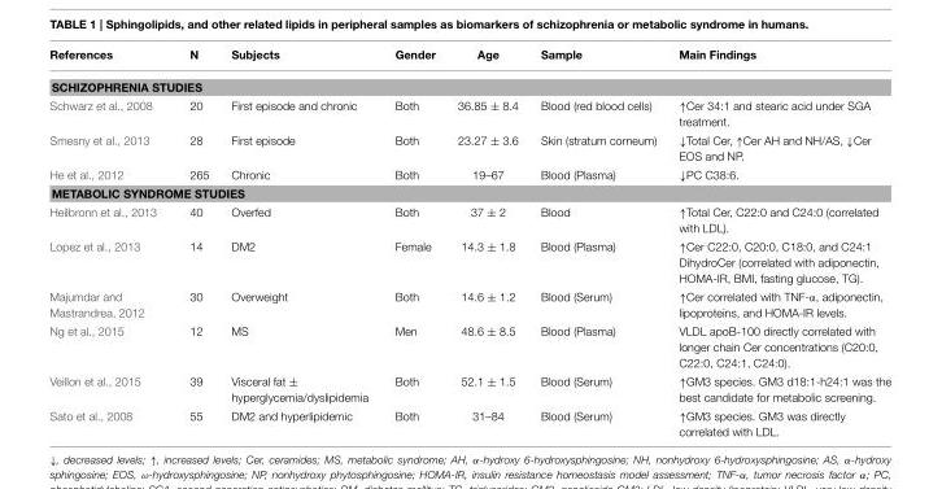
<table><thead><tr><td>References</td><td>N</td><td>Subjects</td><td>Gender</td><td>Age</td><td>Sample</td><td>Main Findings</td></tr></thead><tbody><tr><td colspan="7">SCHIZOPHRENIA STUDIES</td></tr><tr><td>Schwarz et al., 2008</td><td>20</td><td>First episode and chronic</td><td>Both</td><td>36.85 ± 8.4</td><td>Blood (red blood cells)</td><td>↑Cer 34:1 and stearic acid under SGA treatment.</td></tr><tr><td>Smesny et al., 2013</td><td>28</td><td>First episode</td><td>Both</td><td>23.27 ± 3.6</td><td>Skin (stratum corneum)</td><td>↓Total Cer, ↑Cer AH and NH/AS, ↓Cer EOS and NP.</td></tr><tr><td>He et al., 2012</td><td>265</td><td>Chronic</td><td>Both</td><td>19–67</td><td>Blood (Plasma)</td><td>↓PC C38:6.</td></tr><tr><td colspan="7">METABOLIC SYNDROME STUDIES</td></tr><tr><td>Heilbronn et al., 2013</td><td>40</td><td>Overfed</td><td>Both</td><td>37 ± 2</td><td>Blood</td><td>↑Total Cer, C22:0 and C24:0 (correlated with LDL).</td></tr><tr><td>Lopez et al., 2013</td><td>14</td><td>DM2</td><td>Female</td><td>14.3 ± 1.8</td><td>Blood (Plasma)</td><td>↑Cer C22:0, C20:0, C18:0, and C24:1 DihydroCer (correlated with adiponectin, HOMA-IR, BMI, fasting glucose, TG).</td></tr><tr><td>Majumdar and Mastrandrea, 2012</td><td>30</td><td>Overweight</td><td>Both</td><td>14.6 ± 1.2</td><td>Blood (Serum)</td><td>↑Cer correlated with TNF-α, adiponectin, lipoproteins, and HOMA-IR levels.</td></tr><tr><td>Ng et al., 2015</td><td>12</td><td>MS</td><td>Men</td><td>48.6 ± 8.5</td><td>Blood (Plasma)</td><td>VLDL apoB-100 directly correlated with longer chain Cer concentrations (C20:0, C22:0, C24:1, C24:0).</td></tr><tr><td>Veillon et al., 2015</td><td>39</td><td>Visceral fat ± hyperglycemia/dyslipidemia</td><td>Both</td><td>52.1 ± 1.5</td><td>Blood (Serum)</td><td>↑GM3 species. GM3 d18:1-h24:1 was the best candidate for metabolic screening.</td></tr><tr><td>Sato et al., 2008</td><td>55</td><td>DM2 and hyperlipidemic</td><td>Both</td><td>31–84</td><td>Blood (Serum)</td><td>↑GM3 species. GM3 was directly correlated with LDL.</td></tr></tbody></table>